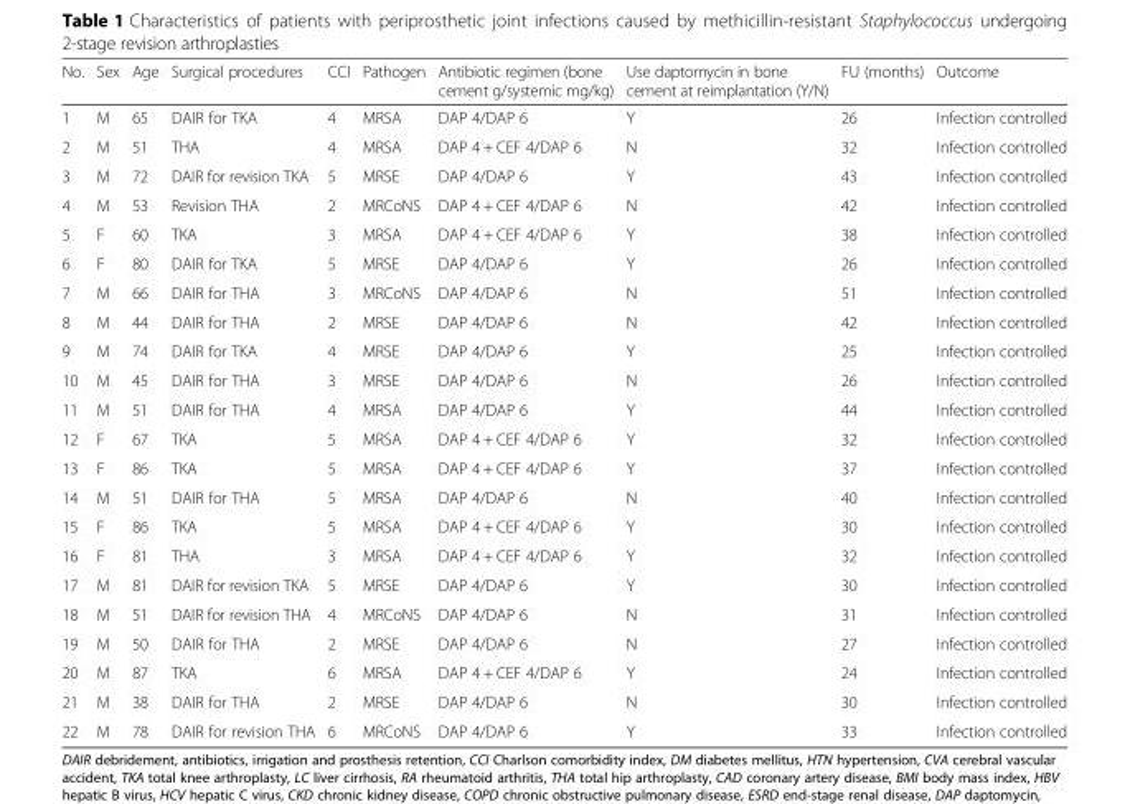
<table><thead><tr><td>No.</td><td>Sex</td><td>Age</td><td>Surgical procedures</td><td>CCI</td><td>Pathogen</td><td>Antibiotic regimen (bone cement g/systemic mg/kg)</td><td>Use daptomycin in bone cement at reimplantation (Y/N)</td><td>FU (months)</td><td>Outcome</td></tr></thead><tbody><tr><td>1</td><td>M</td><td>65</td><td>DAIR for TKA</td><td>4</td><td>MRSA</td><td>DAP 4/DAP 6</td><td>Y</td><td>26</td><td>Infection controlled</td></tr><tr><td>2</td><td>M</td><td>51</td><td>THA</td><td>4</td><td>MRSA</td><td>DAP 4 + CEF 4/DAP 6</td><td>N</td><td>32</td><td>Infection controlled</td></tr><tr><td>3</td><td>M</td><td>72</td><td>DAIR for revision TKA</td><td>5</td><td>MRSE</td><td>DAP 4/DAP 6</td><td>Y</td><td>43</td><td>Infection controlled</td></tr><tr><td>4</td><td>M</td><td>53</td><td>Revision THA</td><td>2</td><td>MRCoNS</td><td>DAP 4 + CEF 4/DAP 6</td><td>N</td><td>42</td><td>Infection controlled</td></tr><tr><td>5</td><td>F</td><td>60</td><td>TKA</td><td>3</td><td>MRSA</td><td>DAP 4 + CEF 4/DAP 6</td><td>Y</td><td>38</td><td>Infection controlled</td></tr><tr><td>6</td><td>F</td><td>80</td><td>DAIR for TKA</td><td>5</td><td>MRSE</td><td>DAP 4/DAP 6</td><td>Y</td><td>26</td><td>Infection controlled</td></tr><tr><td>7</td><td>M</td><td>66</td><td>DAIR for THA</td><td>3</td><td>MRCoNS</td><td>DAP 4/DAP 6</td><td>N</td><td>51</td><td>Infection controlled</td></tr><tr><td>8</td><td>M</td><td>44</td><td>DAIR for THA</td><td>2</td><td>MRSE</td><td>DAP 4/DAP 6</td><td>N</td><td>42</td><td>Infection controlled</td></tr><tr><td>9</td><td>M</td><td>74</td><td>DAIR for TKA</td><td>4</td><td>MRSE</td><td>DAP 4/DAP 6</td><td>Y</td><td>25</td><td>Infection controlled</td></tr><tr><td>10</td><td>M</td><td>45</td><td>DAIR for THA</td><td>3</td><td>MRSE</td><td>DAP 4/DAP 6</td><td>N</td><td>26</td><td>Infection controlled</td></tr><tr><td>11</td><td>M</td><td>51</td><td>DAIR for THA</td><td>4</td><td>MRSA</td><td>DAP 4/DAP 6</td><td>Y</td><td>44</td><td>Infection controlled</td></tr><tr><td>12</td><td>F</td><td>67</td><td>TKA</td><td>5</td><td>MRSA</td><td>DAP 4 + CEF 4/DAP 6</td><td>Y</td><td>32</td><td>Infection controlled</td></tr><tr><td>13</td><td>F</td><td>86</td><td>TKA</td><td>5</td><td>MRSA</td><td>DAP 4 + CEF 4/DAP 6</td><td>Y</td><td>37</td><td>Infection controlled</td></tr><tr><td>14</td><td>M</td><td>51</td><td>DAIR for THA</td><td>5</td><td>MRSA</td><td>DAP 4/DAP 6</td><td>N</td><td>40</td><td>Infection controlled</td></tr><tr><td>15</td><td>F</td><td>86</td><td>TKA</td><td>5</td><td>MRSA</td><td>DAP 4 + CEF 4/DAP 6</td><td>Y</td><td>30</td><td>Infection controlled</td></tr><tr><td>16</td><td>F</td><td>81</td><td>THA</td><td>3</td><td>MRSA</td><td>DAP 4 + CEF 4/DAP 6</td><td>Y</td><td>32</td><td>Infection controlled</td></tr><tr><td>17</td><td>M</td><td>81</td><td>DAIR for revision TKA</td><td>5</td><td>MRSE</td><td>DAP 4/DAP 6</td><td>Y</td><td>30</td><td>Infection controlled</td></tr><tr><td>18</td><td>M</td><td>51</td><td>DAIR for revision THA</td><td>4</td><td>MRCoNS</td><td>DAP 4/DAP 6</td><td>N</td><td>31</td><td>Infection controlled</td></tr><tr><td>19</td><td>M</td><td>50</td><td>DAIR for THA</td><td>2</td><td>MRSE</td><td>DAP 4/DAP 6</td><td>N</td><td>27</td><td>Infection controlled</td></tr><tr><td>20</td><td>M</td><td>87</td><td>TKA</td><td>6</td><td>MRSA</td><td>DAP 4 + CEF 4/DAP 6</td><td>Y</td><td>24</td><td>Infection controlled</td></tr><tr><td>21</td><td>M</td><td>38</td><td>DAIR for THA</td><td>2</td><td>MRSE</td><td>DAP 4/DAP 6</td><td>N</td><td>30</td><td>Infection controlled</td></tr><tr><td>22</td><td>M</td><td>78</td><td>DAIR for revision THA</td><td>6</td><td>MRCoNS</td><td>DAP 4/DAP 6</td><td>Y</td><td>33</td><td>Infection controlled</td></tr></tbody></table>